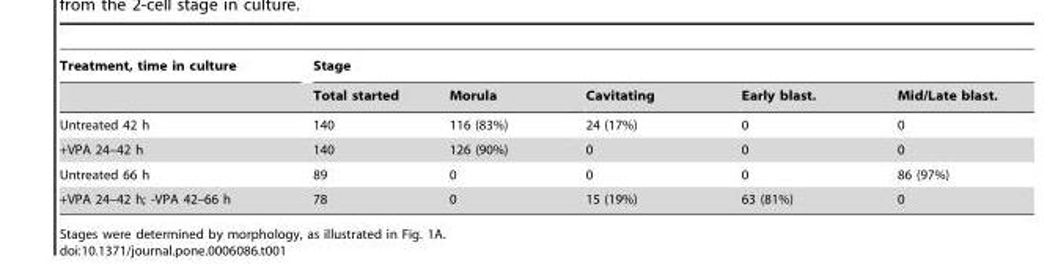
<table><thead><tr><td rowspan="2">Treatment, time in culture</td><td colspan="5">Stage</td></tr><tr><td>Total started</td><td>Morula</td><td>Cavitating</td><td>Early blast.</td><td>Mid/Late blast.</td></tr></thead><tbody><tr><td>Untreated 42 h</td><td>140</td><td>116 (83%)</td><td>24 (17%)</td><td>0</td><td>0</td></tr><tr><td>+VPA 24–42 h</td><td>140</td><td>126 (90%)</td><td>0</td><td>0</td><td>0</td></tr><tr><td>Untreated 66 h</td><td>89</td><td>0</td><td>0</td><td>0</td><td>86 (97%)</td></tr><tr><td>+VPA 24–42 h; -VPA 42–66 h</td><td>78</td><td>0</td><td>15 (19%)</td><td>63 (81%)</td><td>0</td></tr></tbody></table>